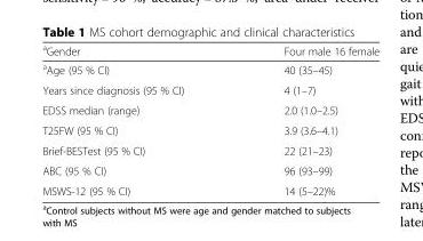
<table><thead><tr><td><sup>a</sup>Gender</td><td>Four male 16 female</td></tr></thead><tbody><tr><td><sup>a</sup>Age (95 % CI)</td><td>40 (35–45)</td></tr><tr><td>Years since diagnosis (95 % CI)</td><td>4 (1–7)</td></tr><tr><td>EDSS median (range)</td><td>2.0 (1.0–2.5)</td></tr><tr><td>T25FW (95 % CI)</td><td>3.9 (3.6–4.1)</td></tr><tr><td>Brief-BESTest (95 % CI)</td><td>22 (21–23)</td></tr><tr><td>ABC (95 % CI)</td><td>96 (93–99)</td></tr><tr><td>MSWS-12 (95 % CI)</td><td>14 (5–22)%</td></tr></tbody></table>